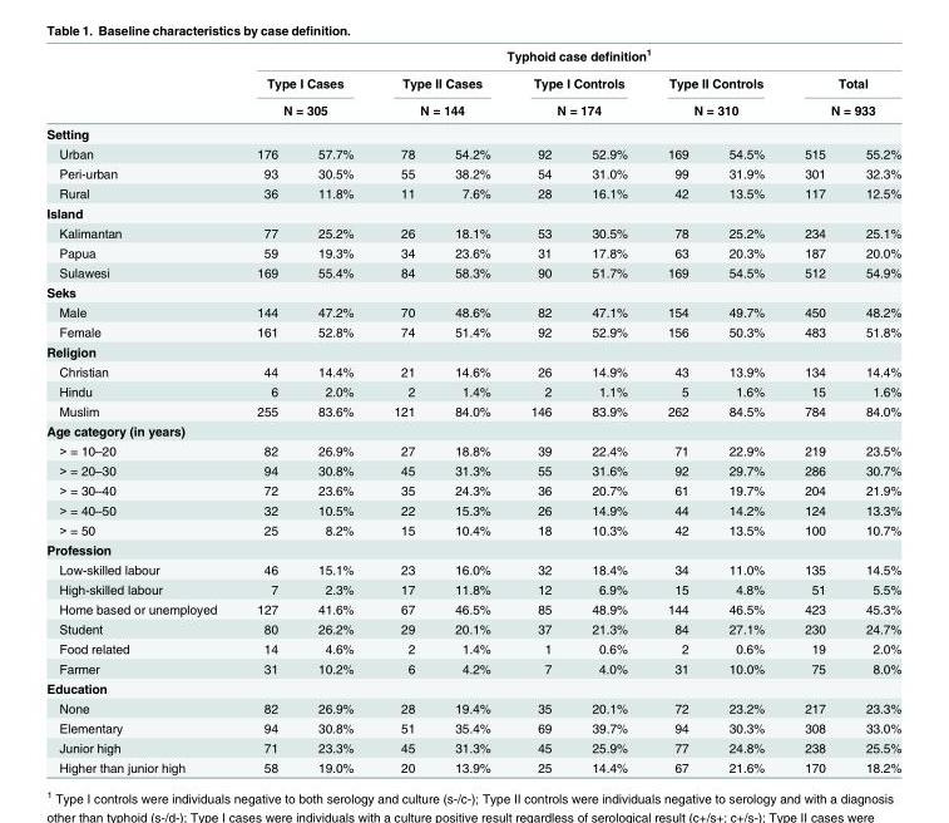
<table><thead><tr><td rowspan="4">Setting</td><td colspan="10">Typhoid case definition<sup>1</sup></td></tr><tr><td rowspan="2" colspan="2">Type I Cases N = 305</td><td rowspan="2" colspan="2">Type II Cases N = 144</td><td rowspan="2" colspan="2">Type I Controls N = 174</td><td rowspan="2" colspan="2">Type II Controls N = 310</td><td rowspan="2" colspan="2">Total N = 933</td></tr><tr></tr><tr><td></td><td></td><td></td><td></td><td></td><td></td><td></td><td></td><td></td><td></td></tr></thead><tbody><tr><td>Urban</td><td>176</td><td>57.7%</td><td>78</td><td>54.2%</td><td>92</td><td>52.9%</td><td>169</td><td>54.5%</td><td>515</td><td>55.2%</td></tr><tr><td>Peri-urban</td><td>93</td><td>30.5%</td><td>55</td><td>38.2%</td><td>54</td><td>31.0%</td><td>99</td><td>31.9%</td><td>301</td><td>32.3%</td></tr><tr><td>Rural</td><td>36</td><td>11.8%</td><td>11</td><td>7.6%</td><td>28</td><td>16.1%</td><td>42</td><td>13.5%</td><td>117</td><td>12.5%</td></tr><tr><td colspan="11">Island</td></tr><tr><td>Kalimantan</td><td>77</td><td>25.2%</td><td>26</td><td>18.1%</td><td>53</td><td>30.5%</td><td>78</td><td>25.2%</td><td>234</td><td>25.1%</td></tr><tr><td>Papua</td><td>59</td><td>19.3%</td><td>34</td><td>23.6%</td><td>31</td><td>17.8%</td><td>63</td><td>20.3%</td><td>187</td><td>20.0%</td></tr><tr><td>Sulawesi</td><td>169</td><td>55.4%</td><td>84</td><td>58.3%</td><td>90</td><td>51.7%</td><td>169</td><td>54.5%</td><td>512</td><td>54.9%</td></tr><tr><td colspan="11">Seks</td></tr><tr><td>Male</td><td>144</td><td>47.2%</td><td>70</td><td>48.6%</td><td>82</td><td>47.1%</td><td>154</td><td>49.7%</td><td>450</td><td>48.2%</td></tr><tr><td>Female</td><td>161</td><td>52.8%</td><td>74</td><td>51.4%</td><td>92</td><td>52.9%</td><td>156</td><td>50.3%</td><td>483</td><td>51.8%</td></tr><tr><td colspan="11">Religion</td></tr><tr><td>Christian</td><td>44</td><td>14.4%</td><td>21</td><td>14.6%</td><td>26</td><td>14.9%</td><td>43</td><td>13.9%</td><td>134</td><td>14.4%</td></tr><tr><td>Hindu</td><td>6</td><td>2.0%</td><td>2</td><td>1.4%</td><td>2</td><td>1.1%</td><td>5</td><td>1.6%</td><td>15</td><td>1.6%</td></tr><tr><td>Muslim</td><td>255</td><td>83.6%</td><td>121</td><td>84.0%</td><td>146</td><td>83.9%</td><td>262</td><td>84.5%</td><td>784</td><td>84.0%</td></tr><tr><td colspan="11">Age category (in years)</td></tr><tr><td>&gt; = 10–20</td><td>82</td><td>26.9%</td><td>27</td><td>18.8%</td><td>39</td><td>22.4%</td><td>71</td><td>22.9%</td><td>219</td><td>23.5%</td></tr><tr><td>&gt; = 20–30</td><td>94</td><td>30.8%</td><td>45</td><td>31.3%</td><td>55</td><td>31.6%</td><td>92</td><td>29.7%</td><td>286</td><td>30.7%</td></tr><tr><td>&gt; = 30–40</td><td>72</td><td>23.6%</td><td>35</td><td>24.3%</td><td>36</td><td>20.7%</td><td>61</td><td>19.7%</td><td>204</td><td>21.9%</td></tr><tr><td>&gt; = 40–50</td><td>32</td><td>10.5%</td><td>22</td><td>15.3%</td><td>26</td><td>14.9%</td><td>44</td><td>14.2%</td><td>124</td><td>13.3%</td></tr><tr><td>&gt; = 50</td><td>25</td><td>8.2%</td><td>15</td><td>10.4%</td><td>18</td><td>10.3%</td><td>42</td><td>13.5%</td><td>100</td><td>10.7%</td></tr><tr><td colspan="11">Profession</td></tr><tr><td>Low-skilled labour</td><td>46</td><td>15.1%</td><td>23</td><td>16.0%</td><td>32</td><td>18.4%</td><td>34</td><td>11.0%</td><td>135</td><td>14.5%</td></tr><tr><td>High-skilled labour</td><td>7</td><td>2.3%</td><td>17</td><td>11.8%</td><td>12</td><td>6.9%</td><td>15</td><td>4.8%</td><td>51</td><td>5.5%</td></tr><tr><td>Home based or unemployed</td><td>127</td><td>41.6%</td><td>67</td><td>46.5%</td><td>85</td><td>48.9%</td><td>144</td><td>46.5%</td><td>423</td><td>45.3%</td></tr><tr><td>Student</td><td>80</td><td>26.2%</td><td>29</td><td>20.1%</td><td>37</td><td>21.3%</td><td>84</td><td>27.1%</td><td>230</td><td>24.7%</td></tr><tr><td>Food related</td><td>14</td><td>4.6%</td><td>2</td><td>1.4%</td><td>1</td><td>0.6%</td><td>2</td><td>0.6%</td><td>19</td><td>2.0%</td></tr><tr><td>Farmer</td><td>31</td><td>10.2%</td><td>6</td><td>4.2%</td><td>7</td><td>4.0%</td><td>31</td><td>10.0%</td><td>75</td><td>8.0%</td></tr><tr><td colspan="11">Education</td></tr><tr><td>None</td><td>82</td><td>26.9%</td><td>28</td><td>19.4%</td><td>35</td><td>20.1%</td><td>72</td><td>23.2%</td><td>217</td><td>23.3%</td></tr><tr><td>Elementary</td><td>94</td><td>30.8%</td><td>51</td><td>35.4%</td><td>69</td><td>39.7%</td><td>94</td><td>30.3%</td><td>308</td><td>33.0%</td></tr><tr><td>Junior high</td><td>71</td><td>23.3%</td><td>45</td><td>31.3%</td><td>45</td><td>25.9%</td><td>77</td><td>24.8%</td><td>238</td><td>25.5%</td></tr><tr><td>Higher than junior high</td><td>58</td><td>19.0%</td><td>20</td><td>13.9%</td><td>25</td><td>14.4%</td><td>67</td><td>21.6%</td><td>170</td><td>18.2%</td></tr></tbody></table>